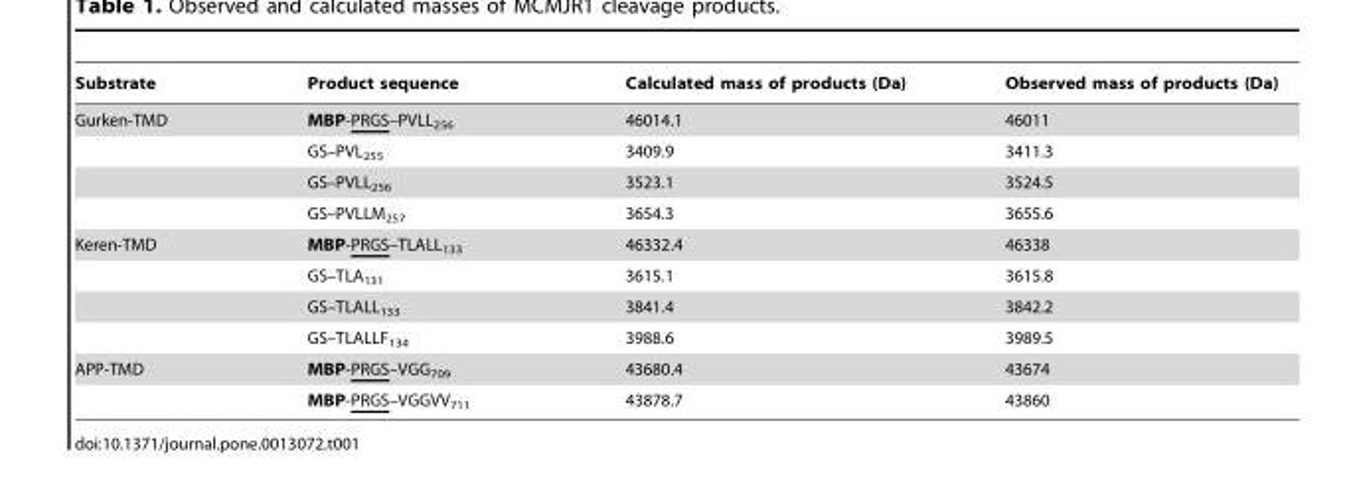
<table><thead><tr><td>Substrate</td><td>Product sequence</td><td>Calculated mass of products (Da)</td><td>Observed mass of products (Da)</td></tr></thead><tbody><tr><td rowspan="4">Gurken-TMD</td><td>MBP-PRGS–PVLL<sub>256</sub></td><td>46014.1</td><td>46011</td></tr><tr><td>GS–PVL<sub>255</sub></td><td>3409.9</td><td>3411.3</td></tr><tr><td>GS–PVLL<sub>256</sub></td><td>3523.1</td><td>3524.5</td></tr><tr><td>GS–PVLLM<sub>257</sub></td><td>3654.3</td><td>3655.6</td></tr><tr><td rowspan="4">Keren-TMD</td><td>MBP-PRGS–TLALL<sub>133</sub></td><td>46332.4</td><td>46338</td></tr><tr><td>GS–TLA<sub>131</sub></td><td>3615.1</td><td>3615.8</td></tr><tr><td>GS–TLALL<sub>133</sub></td><td>3841.4</td><td>3842.2</td></tr><tr><td>GS–TLALLF<sub>134</sub></td><td>3988.6</td><td>3989.5</td></tr><tr><td rowspan="2">APP-TMD</td><td>MBP-PRGS–VGG<sub>709</sub></td><td>43680.4</td><td>43674</td></tr><tr><td>MBP-PRGS–VGGVV<sub>711</sub></td><td>43878.7</td><td>43860</td></tr></tbody></table>